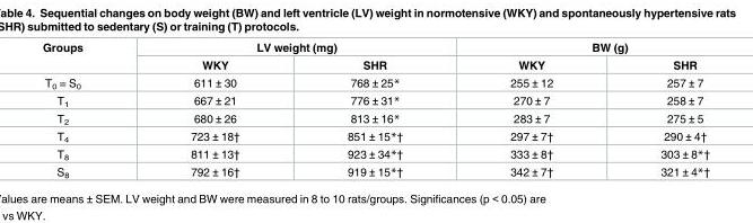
<table><thead><tr><td rowspan="2">Groups</td><td colspan="2">LV weight (mg)</td><td colspan="2">BW (g)</td></tr><tr><td>WKY</td><td>SHR</td><td>WKY</td><td>SHR</td></tr></thead><tbody><tr><td>T<sub>0</sub> = S<sub>0</sub></td><td>611 ± 30</td><td>768 ± 25*</td><td>255 ± 12</td><td>257 ± 7</td></tr><tr><td>T<sub>1</sub></td><td>667 ± 21</td><td>776 ± 31*</td><td>270 ± 7</td><td>258 ± 7</td></tr><tr><td>T<sub>2</sub></td><td>680 ± 26</td><td>813 ± 16*</td><td>283 ± 7</td><td>275 ± 5</td></tr><tr><td>T<sub>4</sub></td><td>723 ± 18†</td><td>851 ± 15*†</td><td>297 ± 7†</td><td>290 ± 4†</td></tr><tr><td>T<sub>8</sub></td><td>811 ± 13†</td><td>923 ± 34*†</td><td>333 ± 8†</td><td>303 ± 8*†</td></tr><tr><td>S<sub>8</sub></td><td>792 ± 16†</td><td>919 ± 15*†</td><td>342 ± 7†</td><td>321 ± 4*†</td></tr></tbody></table>